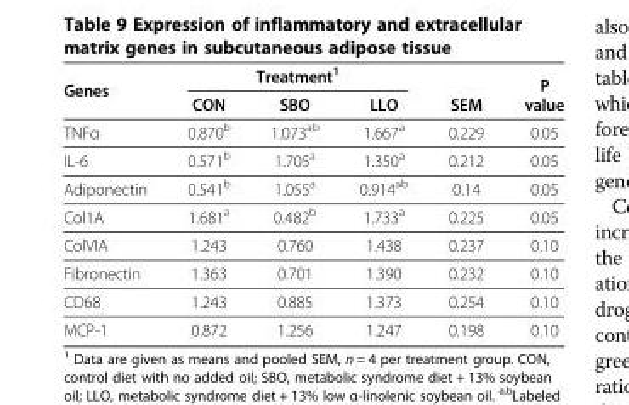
<table><thead><tr><td rowspan="2">Genes</td><td colspan="3">Treatment<sup>1</sup></td><td rowspan="2">SEM</td><td rowspan="2">P value</td></tr><tr><td>CON</td><td>SBO</td><td>LLO</td></tr></thead><tbody><tr><td>TNFα</td><td>0.870<sup>b</sup></td><td>1.073<sup>ab</sup></td><td>1.667<sup>a</sup></td><td>0.229</td><td>0.05</td></tr><tr><td>IL-6</td><td>0.571<sup>b</sup></td><td>1.705<sup>a</sup></td><td>1.350<sup>a</sup></td><td>0.212</td><td>0.05</td></tr><tr><td>Adiponectin</td><td>0.541<sup>b</sup></td><td>1.055<sup>a</sup></td><td>0.914<sup>ab</sup></td><td>0.14</td><td>0.05</td></tr><tr><td>Col1A</td><td>1.681<sup>a</sup></td><td>0.482<sup>b</sup></td><td>1.733<sup>a</sup></td><td>0.225</td><td>0.05</td></tr><tr><td>ColVIA</td><td>1.243</td><td>0.760</td><td>1.438</td><td>0.237</td><td>0.10</td></tr><tr><td>Fibronectin</td><td>1.363</td><td>0.701</td><td>1.390</td><td>0.232</td><td>0.10</td></tr><tr><td>CD68</td><td>1.243</td><td>0.885</td><td>1.373</td><td>0.254</td><td>0.10</td></tr><tr><td>MCP-1</td><td>0.872</td><td>1.256</td><td>1.247</td><td>0.198</td><td>0.10</td></tr></tbody></table>